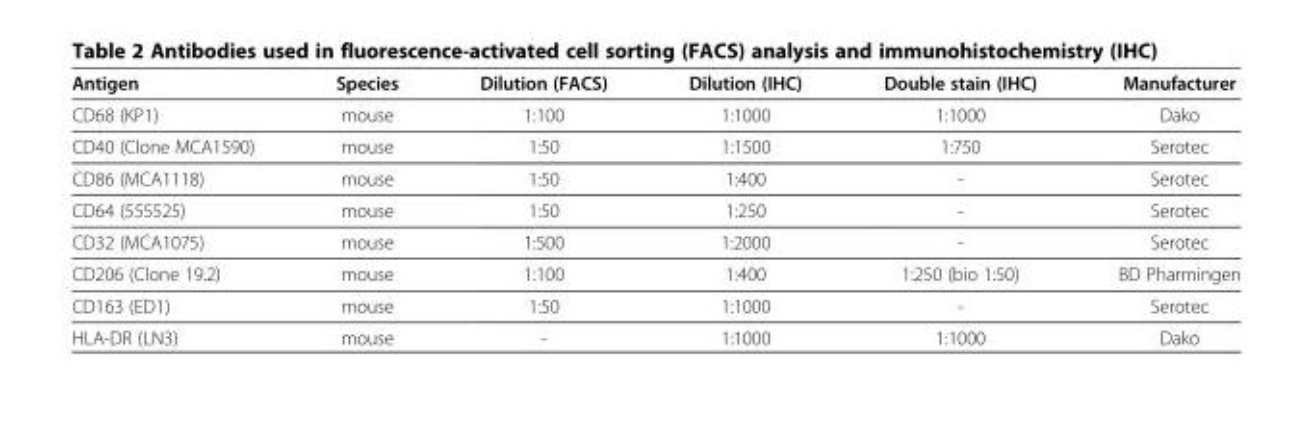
<table><thead><tr><td>Antigen</td><td>Species</td><td>Dilution (FACS)</td><td>Dilution (IHC)</td><td>Double stain (IHC)</td><td>Manufacturer</td></tr></thead><tbody><tr><td>CD68 (KP1)</td><td>mouse</td><td>1:100</td><td>1:1000</td><td>1:1000</td><td>Dako</td></tr><tr><td>CD40 (Clone MCA1590)</td><td>mouse</td><td>1:50</td><td>1:1500</td><td>1:750</td><td>Serotec</td></tr><tr><td>CD86 (MCA1118)</td><td>mouse</td><td>1:50</td><td>1:400</td><td>-</td><td>Serotec</td></tr><tr><td>CD64 (555525)</td><td>mouse</td><td>1:50</td><td>1:250</td><td>-</td><td>Serotec</td></tr><tr><td>CD32 (MCA1075)</td><td>mouse</td><td>1:500</td><td>1:2000</td><td>-</td><td>Serotec</td></tr><tr><td>CD206 (Clone 19.2)</td><td>mouse</td><td>1:100</td><td>1:400</td><td>1:250 (bio 1:50)</td><td>BD Pharmingen</td></tr><tr><td>CD163 (ED1)</td><td>mouse</td><td>1:50</td><td>1:1000</td><td>-</td><td>Serotec</td></tr><tr><td>HLA-DR (LN3)</td><td>mouse</td><td>-</td><td>1:1000</td><td>1:1000</td><td>Dako</td></tr></tbody></table>